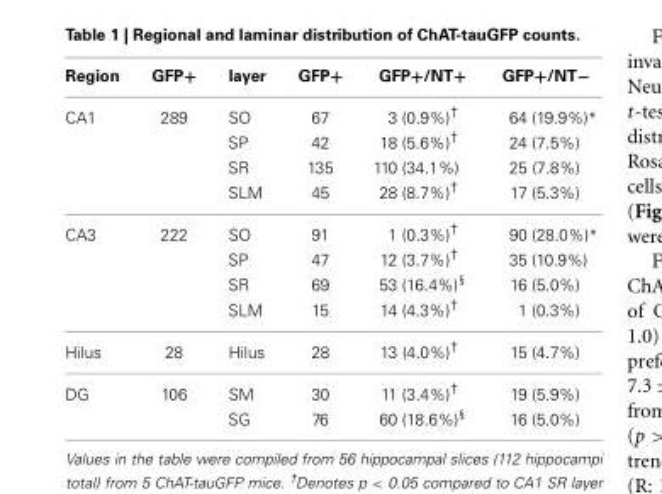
<table><thead><tr><td>Region</td><td>GFP+</td><td>layer</td><td>GFP+</td><td>GFP+/NT+</td><td>GFP+/NT−</td></tr></thead><tbody><tr><td rowspan="4">CA1</td><td>289</td><td>SO</td><td>67</td><td>3 (0.9%)<sup>†</sup></td><td>64 (19.9%)*</td></tr><tr><td></td><td>SP</td><td>42</td><td>18 (5.6%)<sup>†</sup></td><td>24 (7.5%)</td></tr><tr><td></td><td>SR</td><td>135</td><td>110 (34.1%)</td><td>25 (7.8%)</td></tr><tr><td></td><td>SLM</td><td>45</td><td>28 (8.7%)<sup>†</sup></td><td>17 (5.3%)</td></tr><tr><td rowspan="4">CA3</td><td>222</td><td>SO</td><td>91</td><td>1 (0.3%)<sup>†</sup></td><td>90 (28.0%)*</td></tr><tr><td></td><td>SP</td><td>47</td><td>12 (3.7%)<sup>†</sup></td><td>35 (10.9%)</td></tr><tr><td></td><td>SR</td><td>69</td><td>53 (16.4%)<sup>§</sup></td><td>16 (5.0%)</td></tr><tr><td></td><td>SLM</td><td>15</td><td>14 (4.3%)<sup>†</sup></td><td>1 (0.3%)</td></tr><tr><td>Hilus</td><td>28</td><td>Hilus</td><td>28</td><td>13 (4.0%)<sup>†</sup></td><td>15 (4.7%)</td></tr><tr><td rowspan="2">DG</td><td>106</td><td>SM</td><td>30</td><td>11 (3.4%)<sup>†</sup></td><td>19 (5.9%)</td></tr><tr><td></td><td>SG</td><td>76</td><td>60 (18.6%)<sup>§</sup></td><td>16 (5.0%)</td></tr></tbody></table>